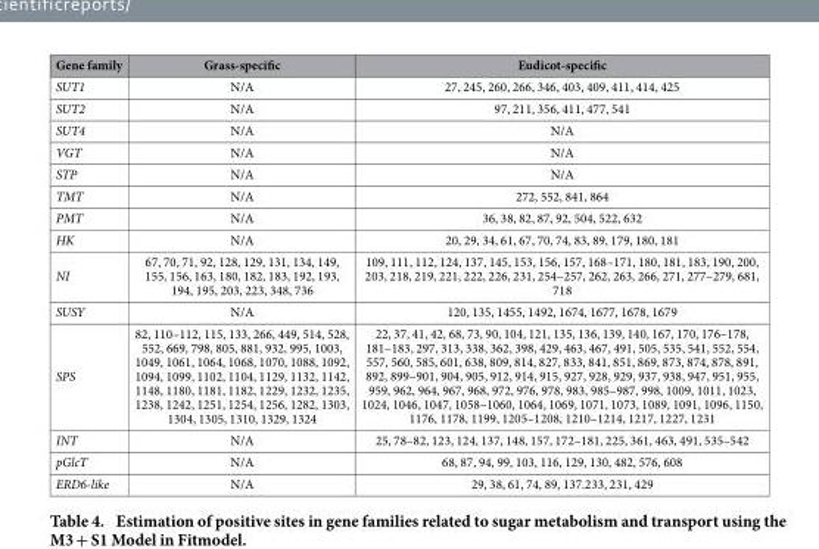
<table><thead><tr><td>Gene family</td><td>Grass-specific</td><td>Eudicot-specific</td></tr></thead><tbody><tr><td>SUT1</td><td>N/A</td><td>27, 245, 260, 266, 346, 403, 409, 411, 414, 425</td></tr><tr><td>SUT2</td><td>N/A</td><td>97, 211, 356, 411, 477, 541</td></tr><tr><td>SUT4</td><td>N/A</td><td>N/A</td></tr><tr><td>VGT</td><td>N/A</td><td>N/A</td></tr><tr><td>STP</td><td>N/A</td><td>N/A</td></tr><tr><td>TMT</td><td>N/A</td><td>272, 552, 841, 864</td></tr><tr><td>PMT</td><td>N/A</td><td>36, 38, 82, 87, 92, 504, 522, 632</td></tr><tr><td>HK</td><td>N/A</td><td>20, 29, 34, 61, 67, 70, 74, 83, 89, 179, 180, 181</td></tr><tr><td>NI</td><td>67, 70, 71, 92, 128, 129, 131, 134, 149, 155, 156, 163, 180, 182, 183, 192, 193, 194, 195, 203, 223, 348, 736</td><td>109, 111, 112, 124, 137, 145, 153, 156, 157, 168–171, 180, 181, 183, 190, 200, 203, 218, 219, 221, 222, 226, 231, 254–257, 262, 263, 266, 271, 277–279, 681, 718</td></tr><tr><td>SUSY</td><td>N/A</td><td>120, 135, 1455, 1492, 1674, 1677, 1678, 1679</td></tr><tr><td>SPS</td><td>82, 110–112, 115, 133, 266, 449, 514, 528, 552, 669, 798, 805, 881, 932, 995, 1003, 1049, 1061, 1064, 1068, 1070, 1088, 1092, 1094, 1099, 1102, 1104, 1129, 1132, 1142, 1148, 1180, 1181, 1182, 1229, 1232, 1235, 1238, 1242, 1251, 1254, 1256, 1282, 1303, 1304, 1305, 1310, 1329, 1324</td><td>22, 37, 41, 42, 68, 73, 90, 104, 121, 135, 136, 139, 140, 167, 170, 176–178, 181–183, 297, 313, 338, 362, 398, 429, 463, 467, 491, 505, 535, 541, 552, 554, 557, 560, 585, 601, 638, 809, 814, 827, 833, 841, 851, 869, 873, 874, 878, 891, 892, 899–901, 904, 905, 912, 914, 915, 927, 928, 929, 937, 938, 947, 951, 955, 959, 962, 964, 967, 968, 972, 976, 978, 983, 985–987, 998, 1009, 1011, 1023, 1024, 1046, 1047, 1058–1060, 1064, 1069, 1071, 1073, 1089, 1091, 1096, 1150, 1176, 1178, 1199, 1205–1208, 1210–1214, 1217, 1227, 1231</td></tr><tr><td>INT</td><td>N/A</td><td>25, 78–82, 123, 124, 137, 148, 157, 172–181, 225, 361, 463, 491, 535–542</td></tr><tr><td>pGlcT</td><td>N/A</td><td>68, 87, 94, 99, 103, 116, 129, 130, 482, 576, 608</td></tr><tr><td>ERD6-like</td><td>N/A</td><td>29, 38, 61, 74, 89, 137.233, 231, 429</td></tr></tbody></table>